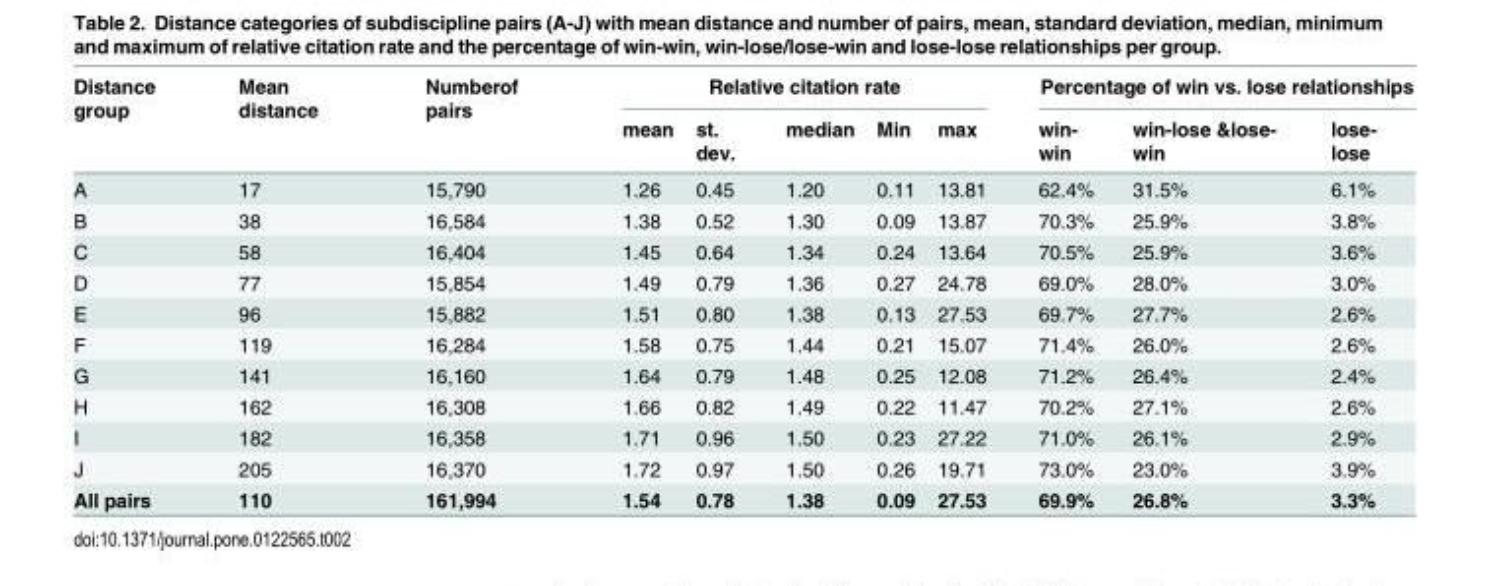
<table><thead><tr><td rowspan="2">Distance group</td><td rowspan="2">Mean distance</td><td rowspan="2">Numberof pairs</td><td colspan="5">Relative citation rate</td><td colspan="3">Percentage of win vs. lose relationships</td></tr><tr><td>mean</td><td>st. dev.</td><td>median</td><td>Min</td><td>max</td><td>win- win</td><td>win-lose &amp;lose- win</td><td>lose- lose</td></tr></thead><tbody><tr><td>A</td><td>17</td><td>15,790</td><td>1.26</td><td>0.45</td><td>1.20</td><td>0.11</td><td>13.81</td><td>62.4%</td><td>31.5%</td><td>6.1%</td></tr><tr><td>B</td><td>38</td><td>16,584</td><td>1.38</td><td>0.52</td><td>1.30</td><td>0.09</td><td>13.87</td><td>70.3%</td><td>25.9%</td><td>3.8%</td></tr><tr><td>C</td><td>58</td><td>16,404</td><td>1.45</td><td>0.64</td><td>1.34</td><td>0.24</td><td>13.64</td><td>70.5%</td><td>25.9%</td><td>3.6%</td></tr><tr><td>D</td><td>77</td><td>15,854</td><td>1.49</td><td>0.79</td><td>1.36</td><td>0.27</td><td>24.78</td><td>69.0%</td><td>28.0%</td><td>3.0%</td></tr><tr><td>E</td><td>96</td><td>15,882</td><td>1.51</td><td>0.80</td><td>1.38</td><td>0.13</td><td>27.53</td><td>69.7%</td><td>27.7%</td><td>2.6%</td></tr><tr><td>F</td><td>119</td><td>16,284</td><td>1.58</td><td>0.75</td><td>1.44</td><td>0.21</td><td>15.07</td><td>71.4%</td><td>26.0%</td><td>2.6%</td></tr><tr><td>G</td><td>141</td><td>16,160</td><td>1.64</td><td>0.79</td><td>1.48</td><td>0.25</td><td>12.08</td><td>71.2%</td><td>26.4%</td><td>2.4%</td></tr><tr><td>H</td><td>162</td><td>16,308</td><td>1.66</td><td>0.82</td><td>1.49</td><td>0.22</td><td>11.47</td><td>70.2%</td><td>27.1%</td><td>2.6%</td></tr><tr><td>I</td><td>182</td><td>16,358</td><td>1.71</td><td>0.96</td><td>1.50</td><td>0.23</td><td>27.22</td><td>71.0%</td><td>26.1%</td><td>2.9%</td></tr><tr><td>J</td><td>205</td><td>16,370</td><td>1.72</td><td>0.97</td><td>1.50</td><td>0.26</td><td>19.71</td><td>73.0%</td><td>23.0%</td><td>3.9%</td></tr><tr><td>All pairs</td><td>110</td><td>161,994</td><td>1.54</td><td>0.78</td><td>1.38</td><td>0.09</td><td>27.53</td><td>69.9%</td><td>26.8%</td><td>3.3%</td></tr></tbody></table>